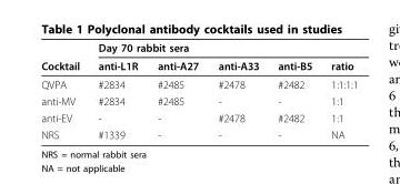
<table><thead><tr><td rowspan="2">Cocktail</td><td colspan="2">Day 70 rabbit sera</td><td rowspan="2">anti-A33</td><td rowspan="2">anti-B5</td><td rowspan="2">ratio</td></tr><tr><td>anti-L1R</td><td>anti-A27</td></tr></thead><tbody><tr><td>QVPA</td><td>#2834</td><td>#2485</td><td>#2478</td><td>#2482</td><td>1:1:1:1</td></tr><tr><td>anti-MV</td><td>#2834</td><td>#2485</td><td>-</td><td>-</td><td>1:1</td></tr><tr><td>anti-EV</td><td>-</td><td>-</td><td>#2478</td><td>#2482</td><td>1:1</td></tr><tr><td>NRS</td><td>#1339</td><td>-</td><td>-</td><td>-</td><td>NA</td></tr></tbody></table>